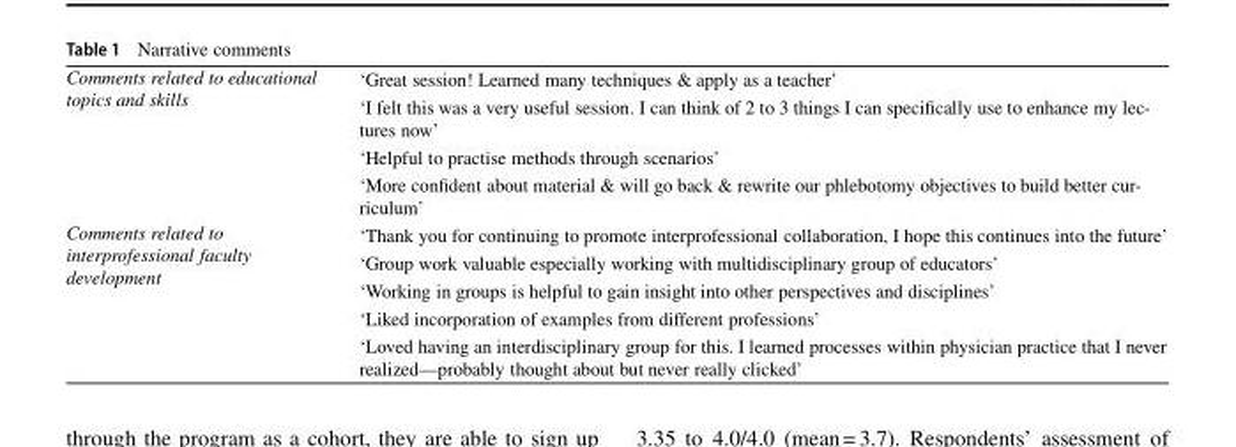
<table><tbody><tr><td rowspan="4">Comments related to educational topics and skills</td><td>‘Great session! Learned many techniques &amp; apply as a teacher’</td></tr><tr><td>‘I felt this was a very useful session. I can think of 2 to 3 things I can specifically use to enhance my lec- tures now’</td></tr><tr><td>‘Helpful to practise methods through scenarios’</td></tr><tr><td>‘More confident about material &amp; will go back &amp; rewrite our phlebotomy objectives to build better cur- riculum’</td></tr><tr><td rowspan="5">Comments related to interprofessional faculty development</td><td>‘Thank you for continuing to promote interprofessional collaboration, I hope this continues into the future’</td></tr><tr><td>‘Group work valuable especially working with multidisciplinary group of educators’</td></tr><tr><td>‘Working in groups is helpful to gain insight into other perspectives and disciplines’</td></tr><tr><td>‘Liked incorporation of examples from different professions’</td></tr><tr><td>‘Loved having an interdisciplinary group for this. I learned processes within physician practice that I never realized—probably thought about but never really clicked’</td></tr></tbody></table>